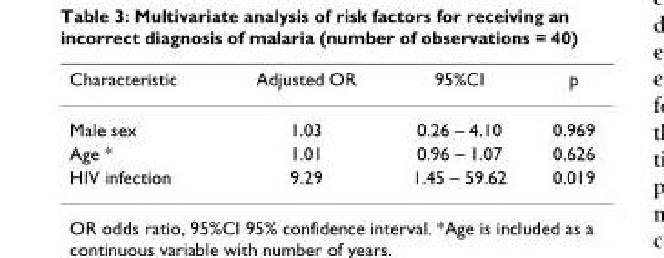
<table><thead><tr><td>Characteristic</td><td>Adjusted OR</td><td>95%CI</td><td>p</td></tr></thead><tbody><tr><td>Male sex</td><td>1.03</td><td>0.26 – 4.10</td><td>0.969</td></tr><tr><td>Age *</td><td>1.01</td><td>0.96 – 1.07</td><td>0.626</td></tr><tr><td>HIV infection</td><td>9.29</td><td>1.45 – 59.62</td><td>0.019</td></tr></tbody></table>